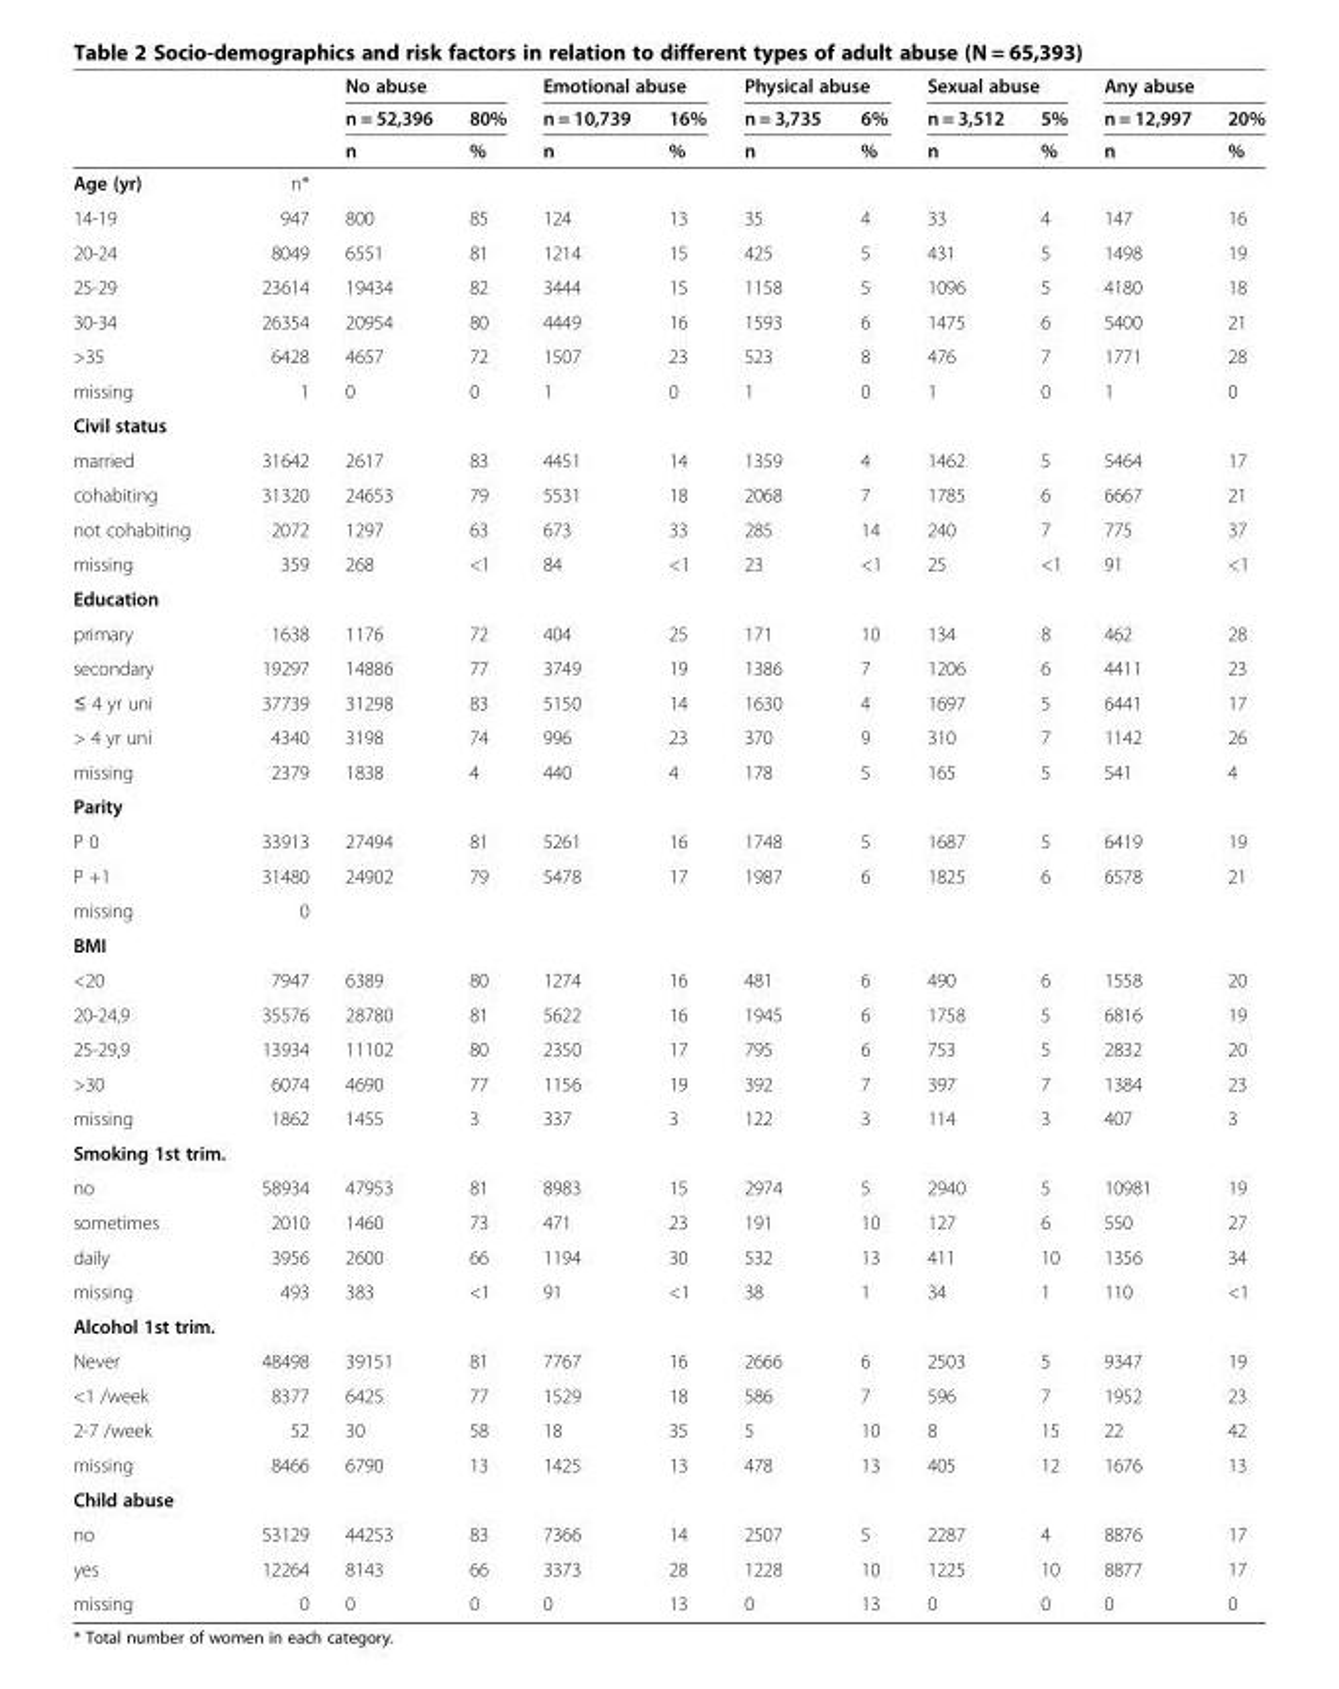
<table><thead><tr><td rowspan="3"></td><td rowspan="3"></td><td colspan="2">No abuse</td><td colspan="2">Emotional abuse</td><td colspan="2">Physical abuse</td><td colspan="2">Sexual abuse</td><td colspan="2">Any abuse</td></tr><tr><td rowspan="2">n = 52,396 n</td><td rowspan="2">80% %</td><td rowspan="2">n = 10,739 n</td><td rowspan="2">16% %</td><td rowspan="2">n = 3,735 n</td><td rowspan="2">6% %</td><td rowspan="2">n = 3,512 n</td><td rowspan="2">5% %</td><td rowspan="2">n = 12,997 n</td><td rowspan="2">20% %</td></tr><tr></tr></thead><tbody><tr><td>Age (yr)</td><td>n*</td><td></td><td></td><td></td><td></td><td></td><td></td><td></td><td></td><td></td><td></td></tr><tr><td>14-19</td><td>947</td><td>800</td><td>85</td><td>124</td><td>13</td><td>35</td><td>4</td><td>33</td><td>4</td><td>147</td><td>16</td></tr><tr><td>20-24</td><td>8049</td><td>6551</td><td>81</td><td>1214</td><td>15</td><td>425</td><td>5</td><td>431</td><td>5</td><td>1498</td><td>19</td></tr><tr><td>25-29</td><td>23614</td><td>19434</td><td>82</td><td>3444</td><td>15</td><td>1158</td><td>5</td><td>1096</td><td>5</td><td>4180</td><td>18</td></tr><tr><td>30-34</td><td>26354</td><td>20954</td><td>80</td><td>4449</td><td>16</td><td>1593</td><td>6</td><td>1475</td><td>6</td><td>5400</td><td>21</td></tr><tr><td>&gt;35</td><td>6428</td><td>4657</td><td>72</td><td>1507</td><td>23</td><td>523</td><td>8</td><td>476</td><td>7</td><td>1771</td><td>28</td></tr><tr><td>missing</td><td>1</td><td>0</td><td>0</td><td>1</td><td>0</td><td>1</td><td>0</td><td>1</td><td>0</td><td>1</td><td>0</td></tr><tr><td colspan="12">Civil status</td></tr><tr><td>married</td><td>31642</td><td>2617</td><td>83</td><td>4451</td><td>14</td><td>1359</td><td>4</td><td>1462</td><td>5</td><td>5464</td><td>17</td></tr><tr><td>cohabiting</td><td>31320</td><td>24653</td><td>79</td><td>5531</td><td>18</td><td>2068</td><td>7</td><td>1785</td><td>6</td><td>6667</td><td>21</td></tr><tr><td>not cohabiting</td><td>2072</td><td>1297</td><td>63</td><td>673</td><td>33</td><td>285</td><td>14</td><td>240</td><td>7</td><td>775</td><td>37</td></tr><tr><td>missing</td><td>359</td><td>268</td><td>&lt;1</td><td>84</td><td>&lt;1</td><td>23</td><td>&lt;1</td><td>25</td><td>&lt;1</td><td>91</td><td>&lt;1</td></tr><tr><td colspan="12">Education</td></tr><tr><td>primary</td><td>1638</td><td>1176</td><td>72</td><td>404</td><td>25</td><td>171</td><td>10</td><td>134</td><td>8</td><td>462</td><td>28</td></tr><tr><td>secondary</td><td>19297</td><td>14886</td><td>77</td><td>3749</td><td>19</td><td>1386</td><td>7</td><td>1206</td><td>6</td><td>4411</td><td>23</td></tr><tr><td>≤ 4 yr uni</td><td>37739</td><td>31298</td><td>83</td><td>5150</td><td>14</td><td>1630</td><td>4</td><td>1697</td><td>5</td><td>6441</td><td>17</td></tr><tr><td>&gt; 4 yr uni</td><td>4340</td><td>3198</td><td>74</td><td>996</td><td>23</td><td>370</td><td>9</td><td>310</td><td>7</td><td>1142</td><td>26</td></tr><tr><td>missing</td><td>2379</td><td>1838</td><td>4</td><td>440</td><td>4</td><td>178</td><td>5</td><td>165</td><td>5</td><td>541</td><td>4</td></tr><tr><td colspan="12">Parity</td></tr><tr><td>P 0</td><td>33913</td><td>27494</td><td>81</td><td>5261</td><td>16</td><td>1748</td><td>5</td><td>1687</td><td>5</td><td>6419</td><td>19</td></tr><tr><td>P +1</td><td>31480</td><td>24902</td><td>79</td><td>5478</td><td>17</td><td>1987</td><td>6</td><td>1825</td><td>6</td><td>6578</td><td>21</td></tr><tr><td>missing</td><td>0</td><td></td><td></td><td></td><td></td><td></td><td></td><td></td><td></td><td></td><td></td></tr><tr><td colspan="12">BMI</td></tr><tr><td>&lt;20</td><td>7947</td><td>6389</td><td>80</td><td>1274</td><td>16</td><td>481</td><td>6</td><td>490</td><td>6</td><td>1558</td><td>20</td></tr><tr><td>20-24,9</td><td>35576</td><td>28780</td><td>81</td><td>5622</td><td>16</td><td>1945</td><td>6</td><td>1758</td><td>5</td><td>6816</td><td>19</td></tr><tr><td>25-29,9</td><td>13934</td><td>11102</td><td>80</td><td>2350</td><td>17</td><td>795</td><td>6</td><td>753</td><td>5</td><td>2832</td><td>20</td></tr><tr><td>&gt;30</td><td>6074</td><td>4690</td><td>77</td><td>1156</td><td>19</td><td>392</td><td>7</td><td>397</td><td>7</td><td>1384</td><td>23</td></tr><tr><td>missing</td><td>1862</td><td>1455</td><td>3</td><td>337</td><td>3</td><td>122</td><td>3</td><td>114</td><td>3</td><td>407</td><td>3</td></tr><tr><td colspan="12">Smoking 1st trim.</td></tr><tr><td>no</td><td>58934</td><td>47953</td><td>81</td><td>8983</td><td>15</td><td>2974</td><td>5</td><td>2940</td><td>5</td><td>10981</td><td>19</td></tr><tr><td>sometimes</td><td>2010</td><td>1460</td><td>73</td><td>471</td><td>23</td><td>191</td><td>10</td><td>127</td><td>6</td><td>550</td><td>27</td></tr><tr><td>daily</td><td>3956</td><td>2600</td><td>66</td><td>1194</td><td>30</td><td>532</td><td>13</td><td>411</td><td>10</td><td>1356</td><td>34</td></tr><tr><td>missing</td><td>493</td><td>383</td><td>&lt;1</td><td>91</td><td>&lt;1</td><td>38</td><td>1</td><td>34</td><td>1</td><td>110</td><td>&lt;1</td></tr><tr><td colspan="12">Alcohol 1st trim.</td></tr><tr><td>Never</td><td>48498</td><td>39151</td><td>81</td><td>7767</td><td>16</td><td>2666</td><td>6</td><td>2503</td><td>5</td><td>9347</td><td>19</td></tr><tr><td>&lt;1 /week</td><td>8377</td><td>6425</td><td>77</td><td>1529</td><td>18</td><td>586</td><td>7</td><td>596</td><td>7</td><td>1952</td><td>23</td></tr><tr><td>2-7 /week</td><td>52</td><td>30</td><td>58</td><td>18</td><td>35</td><td>5</td><td>10</td><td>8</td><td>15</td><td>22</td><td>42</td></tr><tr><td>missing</td><td>8466</td><td>6790</td><td>13</td><td>1425</td><td>13</td><td>478</td><td>13</td><td>405</td><td>12</td><td>1676</td><td>13</td></tr><tr><td colspan="12">Child abuse</td></tr><tr><td>no</td><td>53129</td><td>44253</td><td>83</td><td>7366</td><td>14</td><td>2507</td><td>5</td><td>2287</td><td>4</td><td>8876</td><td>17</td></tr><tr><td>yes</td><td>12264</td><td>8143</td><td>66</td><td>3373</td><td>28</td><td>1228</td><td>10</td><td>1225</td><td>10</td><td>8877</td><td>17</td></tr><tr><td>missing</td><td>0</td><td>0</td><td>0</td><td>0</td><td>13</td><td>0</td><td>13</td><td>0</td><td>0</td><td>0</td><td>0</td></tr></tbody></table>